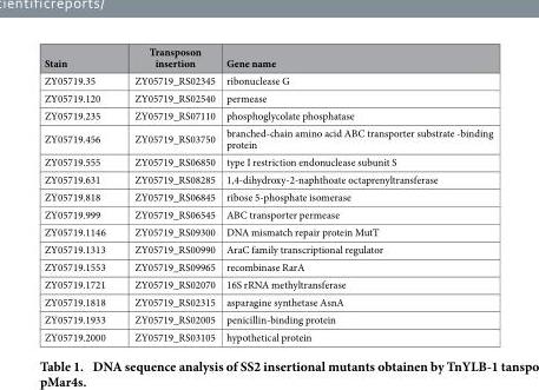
<table><thead><tr><td>Stain</td><td>Transposon insertion</td><td>Gene name</td></tr></thead><tbody><tr><td>ZY05719.35</td><td>ZY05719_RS02345</td><td>ribonuclease G</td></tr><tr><td>ZY05719.120</td><td>ZY05719_RS02540</td><td>permease</td></tr><tr><td>ZY05719.235</td><td>ZY05719_RS07110</td><td>phosphoglycolate phosphatase</td></tr><tr><td>ZY05719.456</td><td>ZY05719_RS03750</td><td>branched-chain amino acid ABC transporter substrate -binding protein</td></tr><tr><td>ZY05719.555</td><td>ZY05719_RS06850</td><td>type I restriction endonuclease subunit S</td></tr><tr><td>ZY05719.631</td><td>ZY05719_RS08285</td><td>1,4-dihydroxy-2-naphthoate octaprenyltransferase</td></tr><tr><td>ZY05719.818</td><td>ZY05719_RS06845</td><td>ribose 5-phosphate isomerase</td></tr><tr><td>ZY05719.999</td><td>ZY05719_RS06545</td><td>ABC transporter permease</td></tr><tr><td>ZY05719.1146</td><td>ZY05719_RS09300</td><td>DNA mismatch repair protein MutT</td></tr><tr><td>ZY05719.1313</td><td>ZY05719_RS00990</td><td>AraC family transcriptional regulator</td></tr><tr><td>ZY05719.1553</td><td>ZY05719_RS09965</td><td>recombinase RarA</td></tr><tr><td>ZY05719.1721</td><td>ZY05719_RS02070</td><td>16S rRNA methyltransferase</td></tr><tr><td>ZY05719.1818</td><td>ZY05719_RS02315</td><td>asparagine synthetase AsnA</td></tr><tr><td>ZY05719.1933</td><td>ZY05719_RS02005</td><td>penicillin-binding protein</td></tr><tr><td>ZY05719.2000</td><td>ZY05719_RS03105</td><td>hypothetical protein</td></tr></tbody></table>